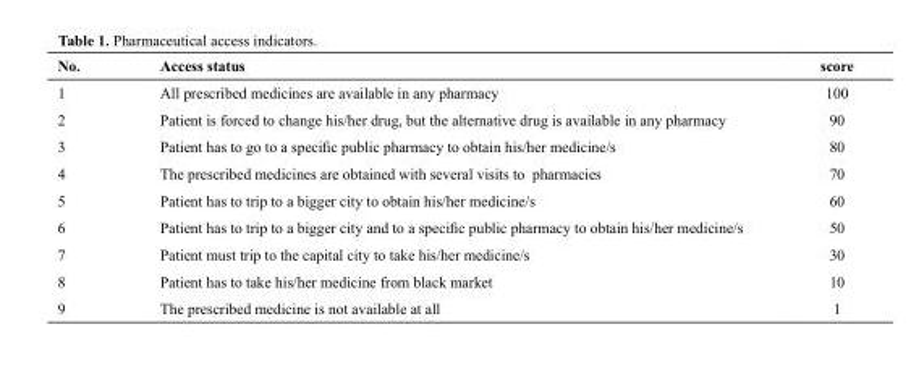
<table><thead><tr><td>No.</td><td>Access status</td><td>score</td></tr></thead><tbody><tr><td>1</td><td>All prescribed medicines are available in any pharmacy</td><td>100</td></tr><tr><td>2</td><td>Patient is forced to change his/her drug, but the alternative drug is available in any pharmacy</td><td>90</td></tr><tr><td>3</td><td>Patient has to go to a specific public pharmacy to obtain his/her medicine/s</td><td>80</td></tr><tr><td>4</td><td>The prescribed medicines are obtained with several visits to pharmacies</td><td>70</td></tr><tr><td>5</td><td>Patient has to trip to a bigger city to obtain his/her medicine/s</td><td>60</td></tr><tr><td>6</td><td>Patient has to trip to a bigger city and to a specific public pharmacy to obtain his/her medicine/s</td><td>50</td></tr><tr><td>7</td><td>Patient must trip to the capital city to take his/her medicine/s</td><td>30</td></tr><tr><td>8</td><td>Patient has to take his/her medicine from black market</td><td>10</td></tr><tr><td>9</td><td>The prescribed medicine is not available at all</td><td>1</td></tr></tbody></table>